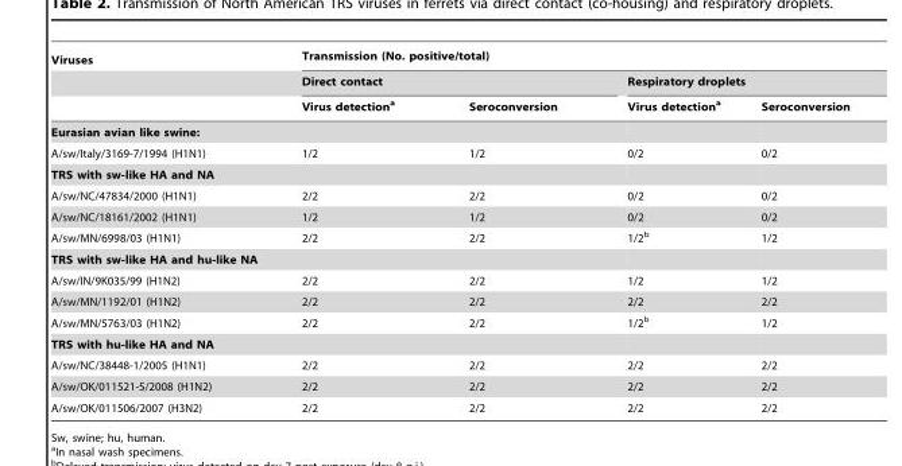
<table><thead><tr><td rowspan="3">Viruses</td><td colspan="4">Transmission (No. positive/total)</td></tr><tr><td colspan="2">Direct contact</td><td colspan="2">Respiratory droplets</td></tr><tr><td>Virus detection<sup>a</sup></td><td>Seroconversion</td><td>Virus detection<sup>a</sup></td><td>Seroconversion</td></tr></thead><tbody><tr><td colspan="5">Eurasian avian like swine:</td></tr><tr><td>A/sw/Italy/3169-7/1994 (H1N1)</td><td>1/2</td><td>1/2</td><td>0/2</td><td>0/2</td></tr><tr><td colspan="5">TRS with sw-like HA and NA</td></tr><tr><td>A/sw/NC/47834/2000 (H1N1)</td><td>2/2</td><td>2/2</td><td>0/2</td><td>0/2</td></tr><tr><td>A/sw/NC/18161/2002 (H1N1)</td><td>1/2</td><td>1/2</td><td>0/2</td><td>0/2</td></tr><tr><td>A/sw/MN/6998/03 (H1N1)</td><td>2/2</td><td>2/2</td><td>1/2<sup>b</sup></td><td>1/2</td></tr><tr><td colspan="5">TRS with sw-like HA and hu-like NA</td></tr><tr><td>A/sw/IN/9K035/99 (H1N2)</td><td>2/2</td><td>2/2</td><td>1/2</td><td>1/2</td></tr><tr><td>A/sw/MN/1192/01 (H1N2)</td><td>2/2</td><td>2/2</td><td>2/2</td><td>2/2</td></tr><tr><td>A/sw/MN/5763/03 (H1N2)</td><td>2/2</td><td>2/2</td><td>1/2<sup>b</sup></td><td>1/2</td></tr><tr><td colspan="5">TRS with hu-like HA and NA</td></tr><tr><td>A/sw/NC/38448-1/2005 (H1N1)</td><td>2/2</td><td>2/2</td><td>2/2</td><td>2/2</td></tr><tr><td>A/sw/OK/011521-5/2008 (H1N2)</td><td>2/2</td><td>2/2</td><td>2/2</td><td>2/2</td></tr><tr><td>A/sw/OK/011506/2007 (H3N2)</td><td>2/2</td><td>2/2</td><td>2/2</td><td>2/2</td></tr></tbody></table>